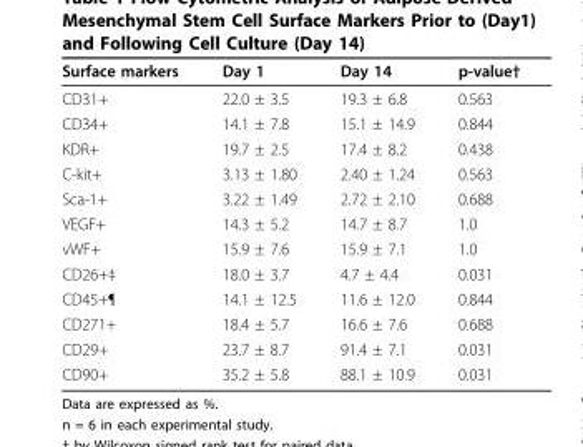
<table><thead><tr><td>Surface markers</td><td>Day 1</td><td>Day 14</td><td>p-value†</td></tr></thead><tbody><tr><td>CD31+</td><td>22.0 ± 3.5</td><td>19.3 ± 6.8</td><td>0.563</td></tr><tr><td>CD34+</td><td>14.1 ± 7.8</td><td>15.1 ± 14.9</td><td>0.844</td></tr><tr><td>KDR+</td><td>19.7 ± 2.5</td><td>17.4 ± 8.2</td><td>0.438</td></tr><tr><td>C-kit+</td><td>3.13 ± 1.80</td><td>2.40 ± 1.24</td><td>0.563</td></tr><tr><td>Sca-1+</td><td>3.22 ± 1.49</td><td>2.72 ± 2.10</td><td>0.688</td></tr><tr><td>VEGF+</td><td>14.3 ± 5.2</td><td>14.7 ± 8.7</td><td>1.0</td></tr><tr><td>vWF+</td><td>15.9 ± 7.6</td><td>15.9 ± 7.1</td><td>1.0</td></tr><tr><td>CD26+‡</td><td>18.0 ± 3.7</td><td>4.7 ± 4.4</td><td>0.031</td></tr><tr><td>CD45+¶</td><td>14.1 ± 12.5</td><td>11.6 ± 12.0</td><td>0.844</td></tr><tr><td>CD271+</td><td>18.4 ± 5.7</td><td>16.6 ± 7.6</td><td>0.688</td></tr><tr><td>CD29+</td><td>23.7 ± 8.7</td><td>91.4 ± 7.1</td><td>0.031</td></tr><tr><td>CD90+</td><td>35.2 ± 5.8</td><td>88.1 ± 10.9</td><td>0.031</td></tr></tbody></table>